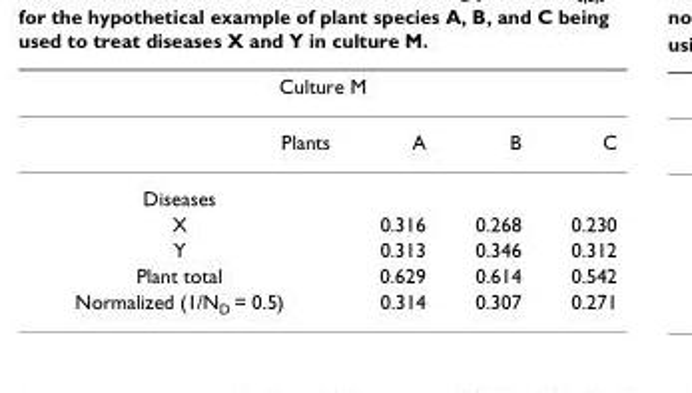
<table><thead><tr><td colspan="4">Culture M</td></tr><tr><td>Plants</td><td>A</td><td>B</td><td>C</td></tr></thead><tbody><tr><td colspan="4">Diseases</td></tr><tr><td>X</td><td>0.316</td><td>0.268</td><td>0.230</td></tr><tr><td>Y</td><td>0.313</td><td>0.346</td><td>0.312</td></tr><tr><td>Plant total</td><td>0.629</td><td>0.614</td><td>0.542</td></tr><tr><td>Normalized (1/N<sub>D</sub> = 0.5)</td><td>0.314</td><td>0.307</td><td>0.271</td></tr></tbody></table>